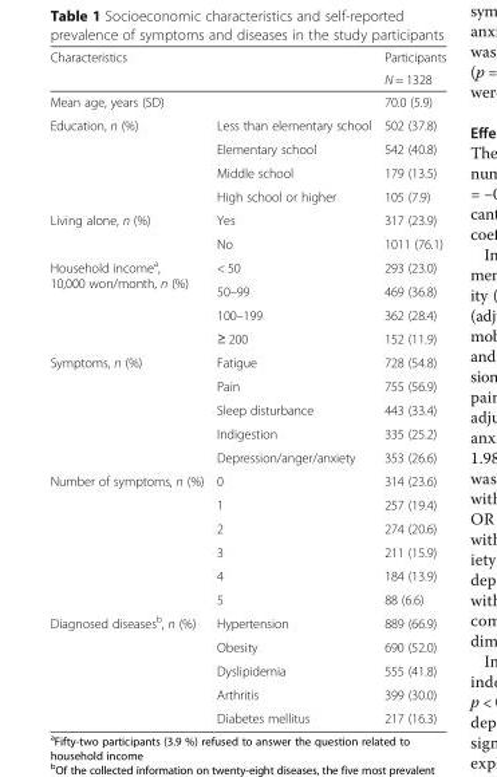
<table><thead><tr><td rowspan="2" colspan="2">Characteristics</td><td rowspan="3">Participants N = 1328 70.0 (5.9)</td></tr><tr></tr><tr><td>Mean age, years (SD)</td><td></td></tr></thead><tbody><tr><td rowspan="4">Education, n (%)</td><td>Less than elementary school</td><td>502 (37.8)</td></tr><tr><td>Elementary school</td><td>542 (40.8)</td></tr><tr><td>Middle school</td><td>179 (13.5)</td></tr><tr><td>High school or higher</td><td>105 (7.9)</td></tr><tr><td rowspan="2">Living alone, n (%)</td><td>Yes</td><td>317 (23.9)</td></tr><tr><td>No</td><td>1011 (76.1)</td></tr><tr><td rowspan="4">Household income<sup>a</sup>, 10,000 won/month, n (%)</td><td>&lt; 50</td><td>293 (23.0)</td></tr><tr><td>50–99</td><td>469 (36.8)</td></tr><tr><td>100–199</td><td>362 (28.4)</td></tr><tr><td>≥ 200</td><td>152 (11.9)</td></tr><tr><td rowspan="5">Symptoms, n (%)</td><td>Fatigue</td><td>728 (54.8)</td></tr><tr><td>Pain</td><td>755 (56.9)</td></tr><tr><td>Sleep disturbance</td><td>443 (33.4)</td></tr><tr><td>Indigestion</td><td>335 (25.2)</td></tr><tr><td>Depression/anger/anxiety</td><td>353 (26.6)</td></tr><tr><td rowspan="6">Number of symptoms, n (%)</td><td>0</td><td>314 (23.6)</td></tr><tr><td>1</td><td>257 (19.4)</td></tr><tr><td>2</td><td>274 (20.6)</td></tr><tr><td>3</td><td>211 (15.9)</td></tr><tr><td>4</td><td>184 (13.9)</td></tr><tr><td>5</td><td>88 (6.6)</td></tr><tr><td rowspan="5">Diagnosed diseases<sup>b</sup>, n (%)</td><td>Hypertension</td><td>889 (66.9)</td></tr><tr><td>Obesity</td><td>690 (52.0)</td></tr><tr><td>Dyslipidemia</td><td>555 (41.8)</td></tr><tr><td>Arthritis</td><td>399 (30.0)</td></tr><tr><td>Diabetes mellitus</td><td>217 (16.3)</td></tr></tbody></table>